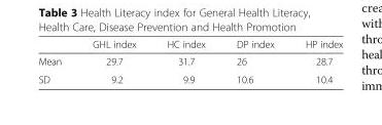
<table><thead><tr><td></td><td>GHL index</td><td>HC index</td><td>DP index</td><td>HP index</td></tr></thead><tbody><tr><td>Mean</td><td>29.7</td><td>31.7</td><td>26</td><td>28.7</td></tr><tr><td>SD</td><td>9.2</td><td>9.9</td><td>10.6</td><td>10.4</td></tr></tbody></table>